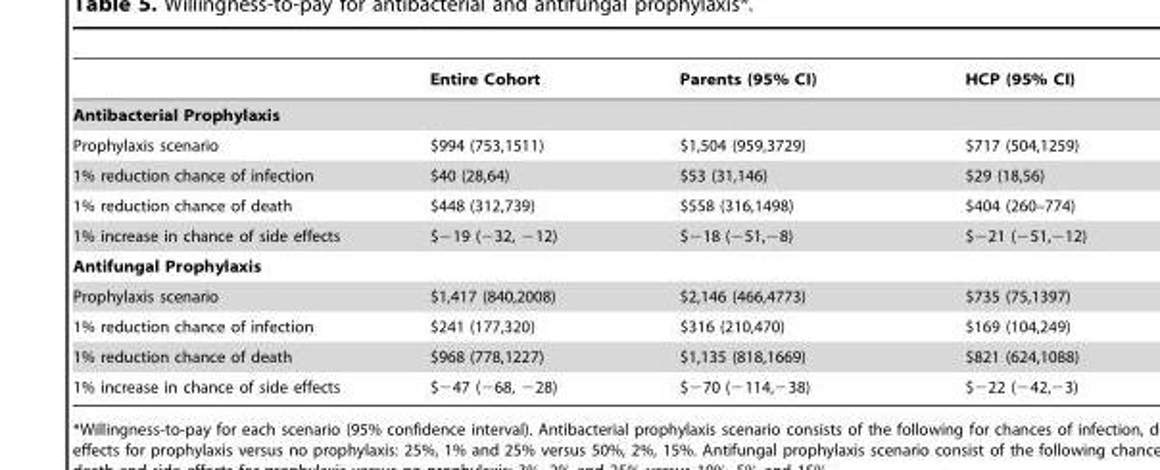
<table><thead><tr><td></td><td>Entire Cohort</td><td>Parents (95% CI)</td><td>HCP (95% CI)</td></tr></thead><tbody><tr><td colspan="4">Antibacterial Prophylaxis</td></tr><tr><td>Prophylaxis scenario</td><td>$994 (753,1511)</td><td>$1,504 (959,3729)</td><td>$717 (504,1259)</td></tr><tr><td>1% reduction chance of infection</td><td>$40 (28,64)</td><td>$53 (31,146)</td><td>$29 (18,56)</td></tr><tr><td>1% reduction chance of death</td><td>$448 (312,739)</td><td>$558 (316,1498)</td><td>$404 (260–774)</td></tr><tr><td>1% increase in chance of side effects</td><td>$−19 (−32, −12)</td><td>$−18 (−51,−8)</td><td>$−21 (−51,−12)</td></tr><tr><td colspan="4">Antifungal Prophylaxis</td></tr><tr><td>Prophylaxis scenario</td><td>$1,417 (840,2008)</td><td>$2,146 (466,4773)</td><td>$735 (75,1397)</td></tr><tr><td>1% reduction chance of infection</td><td>$241 (177,320)</td><td>$316 (210,470)</td><td>$169 (104,249)</td></tr><tr><td>1% reduction chance of death</td><td>$968 (778,1227)</td><td>$1,135 (818,1669)</td><td>$821 (624,1088)</td></tr><tr><td>1% increase in chance of side effects</td><td>$−47 (−68, −28)</td><td>$−70 (−114,−38)</td><td>$−22 (−42,−3)</td></tr></tbody></table>